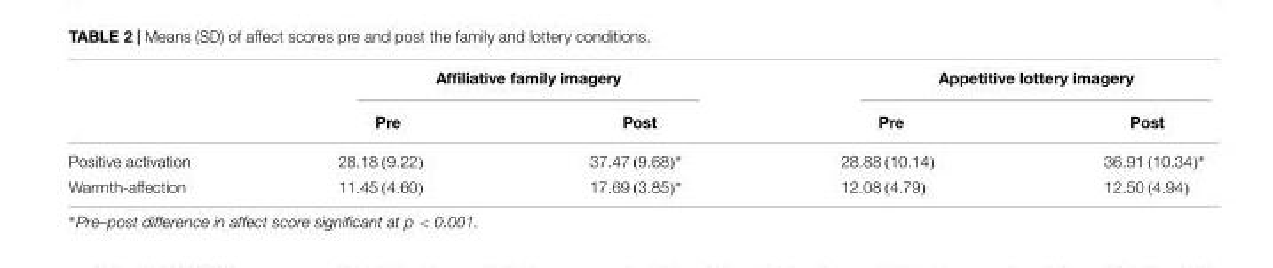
<table><thead><tr><td rowspan="2"></td><td colspan="2">Affiliative family imagery</td><td colspan="2">Appetitive lottery imagery</td></tr><tr><td>Pre</td><td>Post</td><td>Pre</td><td>Post</td></tr></thead><tbody><tr><td>Positive activation</td><td>28.18 (9.22)</td><td>37.47 (9.68)∗</td><td>28.88 (10.14)</td><td>36.91 (10.34)∗</td></tr><tr><td>Warmth-affection</td><td>11.45 (4.60)</td><td>17.69 (3.85)∗</td><td>12.08 (4.79)</td><td>12.50 (4.94)</td></tr></tbody></table>